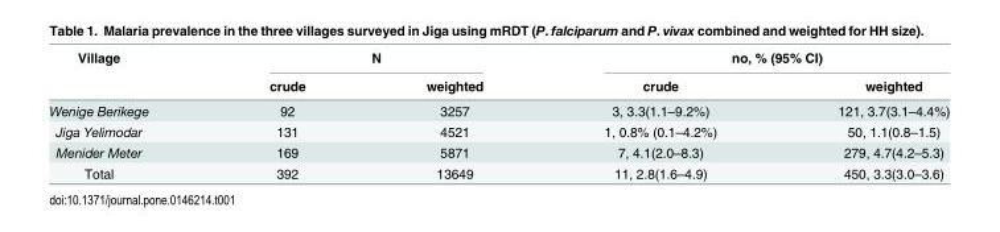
<table><thead><tr><td rowspan="2">Village</td><td colspan="2">N</td><td colspan="2">no, % (95% CI)</td></tr><tr><td>crude</td><td>weighted</td><td>crude</td><td>weighted</td></tr></thead><tbody><tr><td>Wenige Berikege</td><td>92</td><td>3257</td><td>3, 3.3(1.1–9.2%)</td><td>121, 3.7(3.1–4.4%)</td></tr><tr><td>Jiga Yelimodar</td><td>131</td><td>4521</td><td>1, 0.8% (0.1–4.2%)</td><td>50, 1.1(0.8–1.5)</td></tr><tr><td>Menider Meter</td><td>169</td><td>5871</td><td>7, 4.1(2.0–8.3)</td><td>279, 4.7(4.2–5.3)</td></tr><tr><td>Total</td><td>392</td><td>13649</td><td>11, 2.8(1.6–4.9)</td><td>450, 3.3(3.0–3.6)</td></tr></tbody></table>